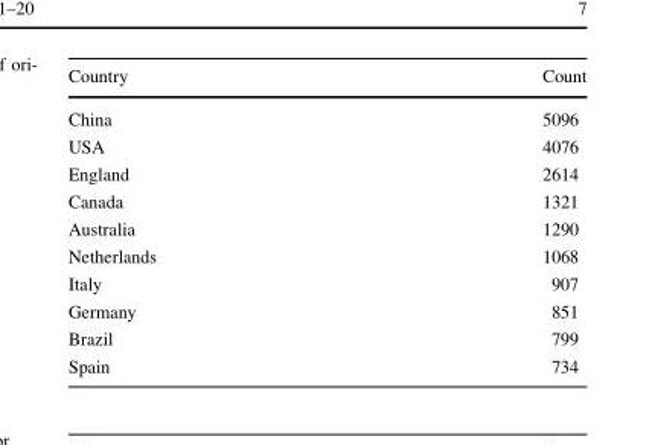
<table><thead><tr><td>Country</td><td>Count</td></tr></thead><tbody><tr><td>China</td><td>5096</td></tr><tr><td>USA</td><td>4076</td></tr><tr><td>England</td><td>2614</td></tr><tr><td>Canada</td><td>1321</td></tr><tr><td>Australia</td><td>1290</td></tr><tr><td>Netherlands</td><td>1068</td></tr><tr><td>Italy</td><td>907</td></tr><tr><td>Germany</td><td>851</td></tr><tr><td>Brazil</td><td>799</td></tr><tr><td>Spain</td><td>734</td></tr></tbody></table>